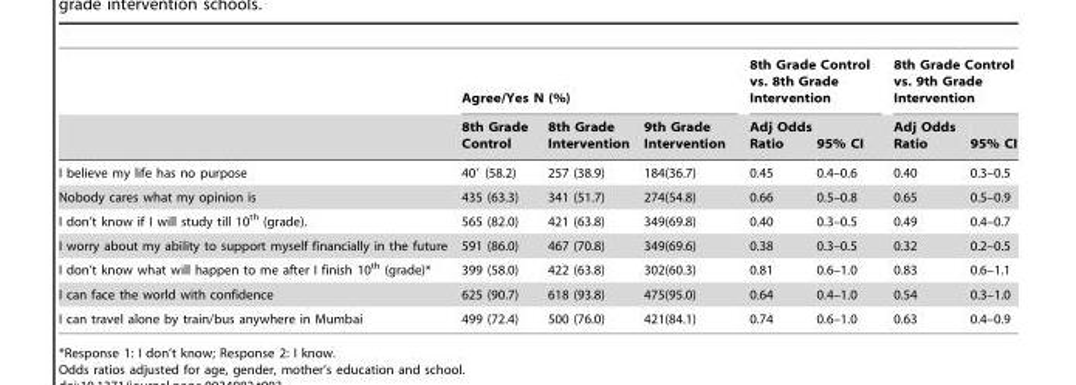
<table><thead><tr><td rowspan="2"></td><td colspan="3">Agree/Yes N (%)</td><td colspan="2">8th Grade Control vs. 8th Grade Intervention</td><td colspan="2">8th Grade Control vs. 9th Grade Intervention</td></tr><tr><td>8th Grade Control</td><td>8th Grade Intervention</td><td>9th Grade Intervention</td><td>Adj Odds Ratio</td><td>95% CI</td><td>Adj Odds Ratio</td><td>95% CI</td></tr></thead><tbody><tr><td>I believe my life has no purpose</td><td>40′ (58.2)</td><td>257 (38.9)</td><td>184(36.7)</td><td>0.45</td><td>0.4–0.6</td><td>0.40</td><td>0.3–0.5</td></tr><tr><td>Nobody cares what my opinion is</td><td>435 (63.3)</td><td>341 (51.7)</td><td>274(54.8)</td><td>0.66</td><td>0.5–0.8</td><td>0.65</td><td>0.5–0.9</td></tr><tr><td>I don’t know if I will study till 10<sup>th</sup> (grade).</td><td>565 (82.0)</td><td>421 (63.8)</td><td>349(69.8)</td><td>0.40</td><td>0.3–0.5</td><td>0.49</td><td>0.4–0.7</td></tr><tr><td>I worry about my ability to support myself financially in the future</td><td>591 (86.0)</td><td>467 (70.8)</td><td>349(69.6)</td><td>0.38</td><td>0.3–0.5</td><td>0.32</td><td>0.2–0.5</td></tr><tr><td>I don’t know what will happen to me after I finish 10<sup>th</sup> (grade)*</td><td>399 (58.0)</td><td>422 (63.8)</td><td>302(60.3)</td><td>0.81</td><td>0.6–1.0</td><td>0.83</td><td>0.6–1.1</td></tr><tr><td>I can face the world with confidence</td><td>625 (90.7)</td><td>618 (93.8)</td><td>475(95.0)</td><td>0.64</td><td>0.4–1.0</td><td>0.54</td><td>0.3–1.0</td></tr><tr><td>I can travel alone by train/bus anywhere in Mumbai</td><td>499 (72.4)</td><td>500 (76.0)</td><td>421(84.1)</td><td>0.74</td><td>0.6–1.0</td><td>0.63</td><td>0.4–0.9</td></tr></tbody></table>